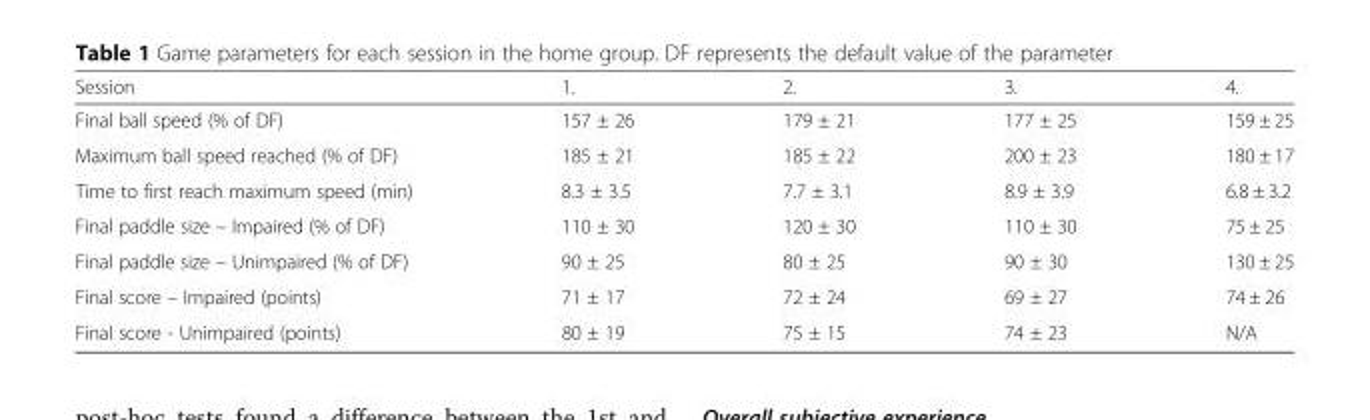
<table><thead><tr><td>Session</td><td>1.</td><td>2.</td><td>3.</td><td>4.</td></tr></thead><tbody><tr><td>Final ball speed (% of DF)</td><td>157 ± 26</td><td>179 ± 21</td><td>177 ± 25</td><td>159 ± 25</td></tr><tr><td>Maximum ball speed reached (% of DF)</td><td>185 ± 21</td><td>185 ± 22</td><td>200 ± 23</td><td>180 ± 17</td></tr><tr><td>Time to first reach maximum speed (min)</td><td>8.3 ± 3.5</td><td>7.7 ± 3.1</td><td>8.9 ± 3.9</td><td>6.8 ± 3.2</td></tr><tr><td>Final paddle size – Impaired (% of DF)</td><td>110 ± 30</td><td>120 ± 30</td><td>110 ± 30</td><td>75 ± 25</td></tr><tr><td>Final paddle size – Unimpaired (% of DF)</td><td>90 ± 25</td><td>80 ± 25</td><td>90 ± 30</td><td>130 ± 25</td></tr><tr><td>Final score – Impaired (points)</td><td>71 ± 17</td><td>72 ± 24</td><td>69 ± 27</td><td>74 ± 26</td></tr><tr><td>Final score - Unimpaired (points)</td><td>80 ± 19</td><td>75 ± 15</td><td>74 ± 23</td><td>N/A</td></tr></tbody></table>